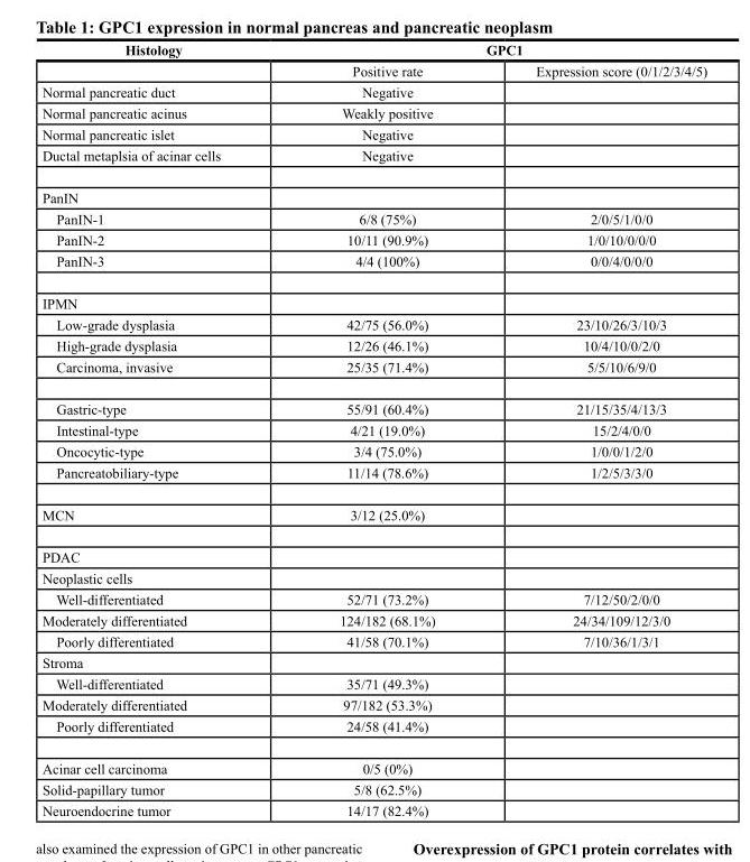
<table><thead><tr><td rowspan="2">Histology</td><td colspan="2">GPC1</td></tr><tr><td>Positive rate</td><td>Expression score (0/1/2/3/4/5)</td></tr></thead><tbody><tr><td>Normal pancreatic duct</td><td>Negative</td><td></td></tr><tr><td>Normal pancreatic acinus</td><td>Weakly positive</td><td></td></tr><tr><td>Normal pancreatic islet</td><td>Negative</td><td></td></tr><tr><td>Ductal metaplsia of acinar cells</td><td>Negative</td><td></td></tr><tr><td colspan="3">PanIN</td></tr><tr><td>PanIN-1</td><td>6/8 (75%)</td><td>2/0/5/1/0/0</td></tr><tr><td>PanIN-2</td><td>10/11 (90.9%)</td><td>1/0/10/0/0/0</td></tr><tr><td>PanIN-3</td><td>4/4 (100%)</td><td>0/0/4/0/0/0</td></tr><tr><td colspan="3">IPMN</td></tr><tr><td>Low-grade dysplasia</td><td>42/75 (56.0%)</td><td>23/10/26/3/10/3</td></tr><tr><td>High-grade dysplasia</td><td>12/26 (46.1%)</td><td>10/4/10/0/2/0</td></tr><tr><td>Carcinoma, invasive</td><td>25/35 (71.4%)</td><td>5/5/10/6/9/0</td></tr><tr><td>Gastric-type</td><td>55/91 (60.4%)</td><td>21/15/35/4/13/3</td></tr><tr><td>Intestinal-type</td><td>4/21 (19.0%)</td><td>15/2/4/0/0</td></tr><tr><td>Oncocytic-type</td><td>3/4 (75.0%)</td><td>1/0/0/1/2/0</td></tr><tr><td>Pancreatobiliary-type</td><td>11/14 (78.6%)</td><td>1/2/5/3/3/0</td></tr><tr><td>MCN</td><td>3/12 (25.0%)</td><td></td></tr><tr><td colspan="3">PDAC</td></tr><tr><td colspan="3">Neoplastic cells</td></tr><tr><td>Well-differentiated</td><td>52/71 (73.2%)</td><td>7/12/50/2/0/0</td></tr><tr><td>Moderately differentiated</td><td>124/182 (68.1%)</td><td>24/34/109/12/3/0</td></tr><tr><td>Poorly differentiated</td><td>41/58 (70.1%)</td><td>7/10/36/1/3/1</td></tr><tr><td colspan="3">Stroma</td></tr><tr><td>Well-differentiated</td><td>35/71 (49.3%)</td><td></td></tr><tr><td>Moderately differentiated</td><td>97/182 (53.3%)</td><td></td></tr><tr><td>Poorly differentiated</td><td>24/58 (41.4%)</td><td></td></tr><tr><td>Acinar cell carcinoma</td><td>0/5 (0%)</td><td></td></tr><tr><td>Solid-papillary tumor</td><td>5/8 (62.5%)</td><td></td></tr><tr><td>Neuroendocrine tumor</td><td>14/17 (82.4%)</td><td></td></tr></tbody></table>